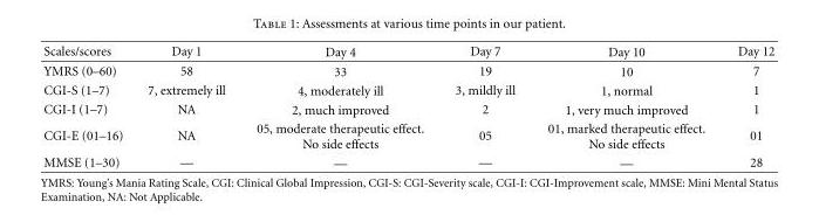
<table><thead><tr><td>Scales/scores</td><td>Day 1</td><td>Day 4</td><td>Day 7</td><td>Day 10</td><td>Day 12</td></tr></thead><tbody><tr><td>YMRS (0–60)</td><td>58</td><td>33</td><td>19</td><td>10</td><td>7</td></tr><tr><td>CGI-S (1–7)</td><td>7, extremely ill</td><td>4, moderately ill</td><td>3, mildly ill</td><td>1, normal</td><td>1</td></tr><tr><td>CGI-I (1–7)</td><td>NA</td><td>2, much improved</td><td>2</td><td>1, very much improved</td><td>1</td></tr><tr><td>CGI-E (01–16)</td><td>NA</td><td>05, moderate therapeutic effect. No side effects</td><td>05</td><td>01, marked therapeutic effect. No side effects</td><td>01</td></tr><tr><td>MMSE (1–30)</td><td>—</td><td>—</td><td>—</td><td>—</td><td>28</td></tr></tbody></table>